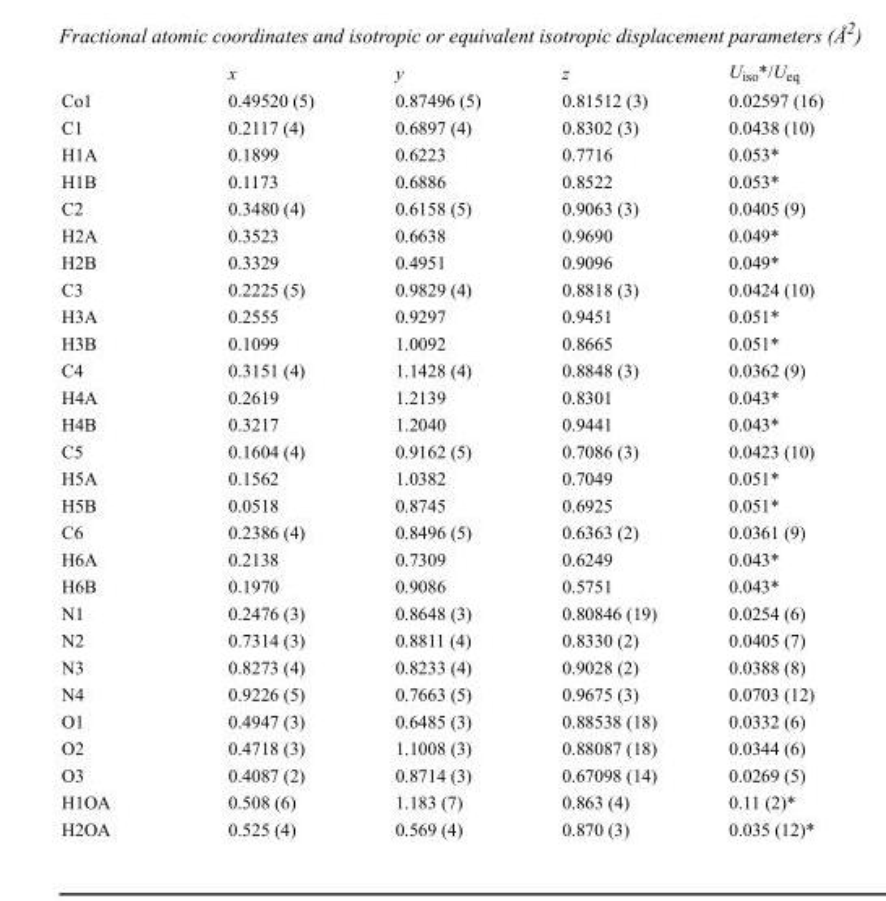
<table><thead><tr><td></td><td>x</td><td>y</td><td>z</td><td>U<sub>iso</sub>*/U<sub>eq</sub></td></tr></thead><tbody><tr><td>Co1</td><td>0.49520 (5)</td><td>0.87496 (5)</td><td>0.81512 (3)</td><td>0.02597 (16)</td></tr><tr><td>C1</td><td>0.2117 (4)</td><td>0.6897 (4)</td><td>0.8302 (3)</td><td>0.0438 (10)</td></tr><tr><td>H1A</td><td>0.1899</td><td>0.6223</td><td>0.7716</td><td>0.053*</td></tr><tr><td>H1B</td><td>0.1173</td><td>0.6886</td><td>0.8522</td><td>0.053*</td></tr><tr><td>C2</td><td>0.3480 (4)</td><td>0.6158 (5)</td><td>0.9063 (3)</td><td>0.0405 (9)</td></tr><tr><td>H2A</td><td>0.3523</td><td>0.6638</td><td>0.9690</td><td>0.049*</td></tr><tr><td>H2B</td><td>0.3329</td><td>0.4951</td><td>0.9096</td><td>0.049*</td></tr><tr><td>C3</td><td>0.2225 (5)</td><td>0.9829 (4)</td><td>0.8818 (3)</td><td>0.0424 (10)</td></tr><tr><td>H3A</td><td>0.2555</td><td>0.9297</td><td>0.9451</td><td>0.051*</td></tr><tr><td>H3B</td><td>0.1099</td><td>1.0092</td><td>0.8665</td><td>0.051*</td></tr><tr><td>C4</td><td>0.3151 (4)</td><td>1.1428 (4)</td><td>0.8848 (3)</td><td>0.0362 (9)</td></tr><tr><td>H4A</td><td>0.2619</td><td>1.2139</td><td>0.8301</td><td>0.043*</td></tr><tr><td>H4B</td><td>0.3217</td><td>1.2040</td><td>0.9441</td><td>0.043*</td></tr><tr><td>C5</td><td>0.1604 (4)</td><td>0.9162 (5)</td><td>0.7086 (3)</td><td>0.0423 (10)</td></tr><tr><td>H5A</td><td>0.1562</td><td>1.0382</td><td>0.7049</td><td>0.051*</td></tr><tr><td>H5B</td><td>0.0518</td><td>0.8745</td><td>0.6925</td><td>0.051*</td></tr><tr><td>C6</td><td>0.2386 (4)</td><td>0.8496 (5)</td><td>0.6363 (2)</td><td>0.0361 (9)</td></tr><tr><td>H6A</td><td>0.2138</td><td>0.7309</td><td>0.6249</td><td>0.043*</td></tr><tr><td>H6B</td><td>0.1970</td><td>0.9086</td><td>0.5751</td><td>0.043*</td></tr><tr><td>N1</td><td>0.2476 (3)</td><td>0.8648 (3)</td><td>0.80846 (19)</td><td>0.0254 (6)</td></tr><tr><td>N2</td><td>0.7314 (3)</td><td>0.8811 (4)</td><td>0.8330 (2)</td><td>0.0405 (7)</td></tr><tr><td>N3</td><td>0.8273 (4)</td><td>0.8233 (4)</td><td>0.9028 (2)</td><td>0.0388 (8)</td></tr><tr><td>N4</td><td>0.9226 (5)</td><td>0.7663 (5)</td><td>0.9675 (3)</td><td>0.0703 (12)</td></tr><tr><td>O1</td><td>0.4947 (3)</td><td>0.6485 (3)</td><td>0.88538 (18)</td><td>0.0332 (6)</td></tr><tr><td>O2</td><td>0.4718 (3)</td><td>1.1008 (3)</td><td>0.88087 (18)</td><td>0.0344 (6)</td></tr><tr><td>O3</td><td>0.4087 (2)</td><td>0.8714 (3)</td><td>0.67098 (14)</td><td>0.0269 (5)</td></tr><tr><td>H1OA</td><td>0.508 (6)</td><td>1.183 (7)</td><td>0.863 (4)</td><td>0.11 (2)*</td></tr><tr><td>H2OA</td><td>0.525 (4)</td><td>0.569 (4)</td><td>0.870 (3)</td><td>0.035 (12)*</td></tr></tbody></table>